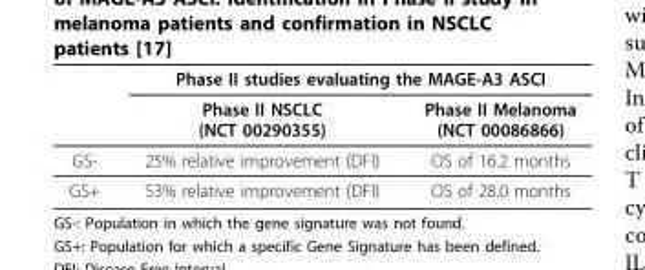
<table><thead><tr><td rowspan="2"></td><td colspan="2">Phase II studies evaluating the MAGE-A3 ASCI</td></tr><tr><td>Phase II NSCLC (NCT 00290355)</td><td>Phase II Melanoma (NCT 00086866)</td></tr></thead><tbody><tr><td>GS-</td><td>25% relative improvement (DFI)</td><td>OS of 16.2 months</td></tr><tr><td>GS+</td><td>53% relative improvement (DFI)</td><td>OS of 28.0 months</td></tr></tbody></table>